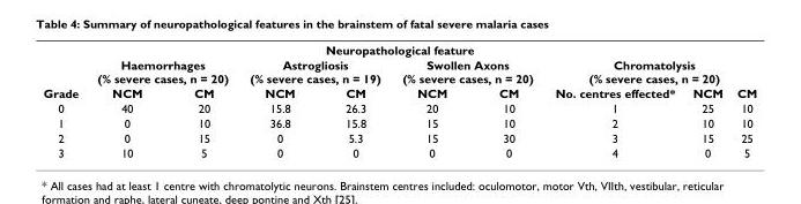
<table><tbody><tr><td colspan="10">Neuropathological feature</td></tr><tr><td></td><td colspan="2">Haemorrhages (% severe cases, n = 20)</td><td colspan="2">Astrogliosis (% severe cases, n = 19)</td><td colspan="2">Swollen Axons (% severe cases, n = 20)</td><td colspan="3">Chromatolysis (% severe cases, n = 20)</td></tr><tr><td>Grade</td><td>NCM</td><td>CM</td><td>NCM</td><td>CM</td><td>NCM</td><td>CM</td><td>No. centres effected*</td><td>NCM</td><td>CM</td></tr><tr><td>0</td><td>40</td><td>20</td><td>15.8</td><td>26.3</td><td>20</td><td>10</td><td>1</td><td>25</td><td>10</td></tr><tr><td>1</td><td>0</td><td>10</td><td>36.8</td><td>15.8</td><td>15</td><td>10</td><td>2</td><td>10</td><td>10</td></tr><tr><td>2</td><td>0</td><td>15</td><td>0</td><td>5.3</td><td>15</td><td>30</td><td>3</td><td>15</td><td>25</td></tr><tr><td>3</td><td>10</td><td>5</td><td>0</td><td>0</td><td>0</td><td>0</td><td>4</td><td>0</td><td>5</td></tr></tbody></table>